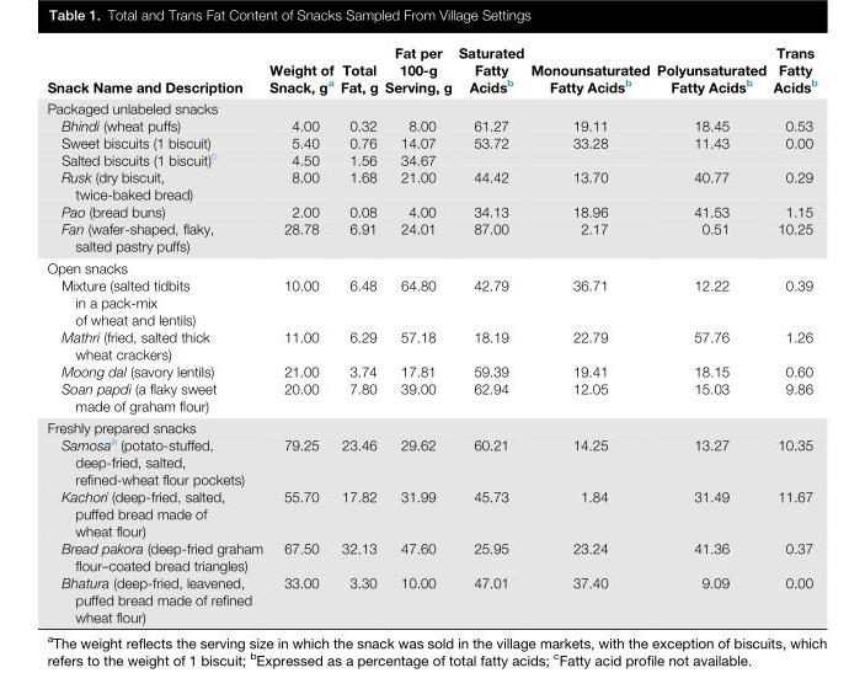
<table><thead><tr><td>Snack Name and Description</td><td>Weight of Snack, g<sup>a</sup></td><td>Total Fat, g</td><td>Fat per 100-g Serving, g</td><td>Saturated Fatty Acids<sup>b</sup></td><td>Monounsaturated Fatty Acids<sup>b</sup></td><td>Polyunsaturated Fatty Acids<sup>b</sup></td><td>Trans Fatty Acids<sup>b</sup></td></tr></thead><tbody><tr><td colspan="8">Packaged unlabeled snacks</td></tr><tr><td>Bhindi (wheat puffs)</td><td>4.00</td><td>0.32</td><td>8.00</td><td>61.27</td><td>19.11</td><td>18.45</td><td>0.53</td></tr><tr><td>Sweet biscuits (1 biscuit)</td><td>5.40</td><td>0.76</td><td>14.07</td><td>53.72</td><td>33.28</td><td>11.43</td><td>0.00</td></tr><tr><td>Salted biscuits (1 biscuit)<sup>c</sup></td><td>4.50</td><td>1.56</td><td>34.67</td><td></td><td></td><td></td><td></td></tr><tr><td>Rusk (dry biscuit, twice-baked bread)</td><td>8.00</td><td>1.68</td><td>21.00</td><td>44.42</td><td>13.70</td><td>40.77</td><td>0.29</td></tr><tr><td>Pao (bread buns)</td><td>2.00</td><td>0.08</td><td>4.00</td><td>34.13</td><td>18.96</td><td>41.53</td><td>1.15</td></tr><tr><td>Fan (wafer-shaped, flaky, salted pastry puffs)</td><td>28.78</td><td>6.91</td><td>24.01</td><td>87.00</td><td>2.17</td><td>0.51</td><td>10.25</td></tr><tr><td colspan="8">Open snacks</td></tr><tr><td>Mixture (salted tidbits in a pack-mix of wheat and lentils)</td><td>10.00</td><td>6.48</td><td>64.80</td><td>42.79</td><td>36.71</td><td>12.22</td><td>0.39</td></tr><tr><td>Mathri (fried, salted thick wheat crackers)</td><td>11.00</td><td>6.29</td><td>57.18</td><td>18.19</td><td>22.79</td><td>57.76</td><td>1.26</td></tr><tr><td>Moong dal (savory lentils)</td><td>21.00</td><td>3.74</td><td>17.81</td><td>59.39</td><td>19.41</td><td>18.15</td><td>0.60</td></tr><tr><td>Soan papdi (a flaky sweet made of graham flour)</td><td>20.00</td><td>7.80</td><td>39.00</td><td>62.94</td><td>12.05</td><td>15.03</td><td>9.86</td></tr><tr><td colspan="8">Freshly prepared snacks</td></tr><tr><td>Samosa<sup>a</sup> (potato-stuffed, deep-fried, salted, refined-wheat flour pockets)</td><td>79.25</td><td>23.46</td><td>29.62</td><td>60.21</td><td>14.25</td><td>13.27</td><td>10.35</td></tr><tr><td>Kachori (deep-fried, salted, puffed bread made of wheat flour)</td><td>55.70</td><td>17.82</td><td>31.99</td><td>45.73</td><td>1.84</td><td>31.49</td><td>11.67</td></tr><tr><td>Bread pakora (deep-fried graham flour–coated bread triangles)</td><td>67.50</td><td>32.13</td><td>47.60</td><td>25.95</td><td>23.24</td><td>41.36</td><td>0.37</td></tr><tr><td>Bhatura (deep-fried, leavened, puffed bread made of refined wheat flour)</td><td>33.00</td><td>3.30</td><td>10.00</td><td>47.01</td><td>37.40</td><td>9.09</td><td>0.00</td></tr></tbody></table>